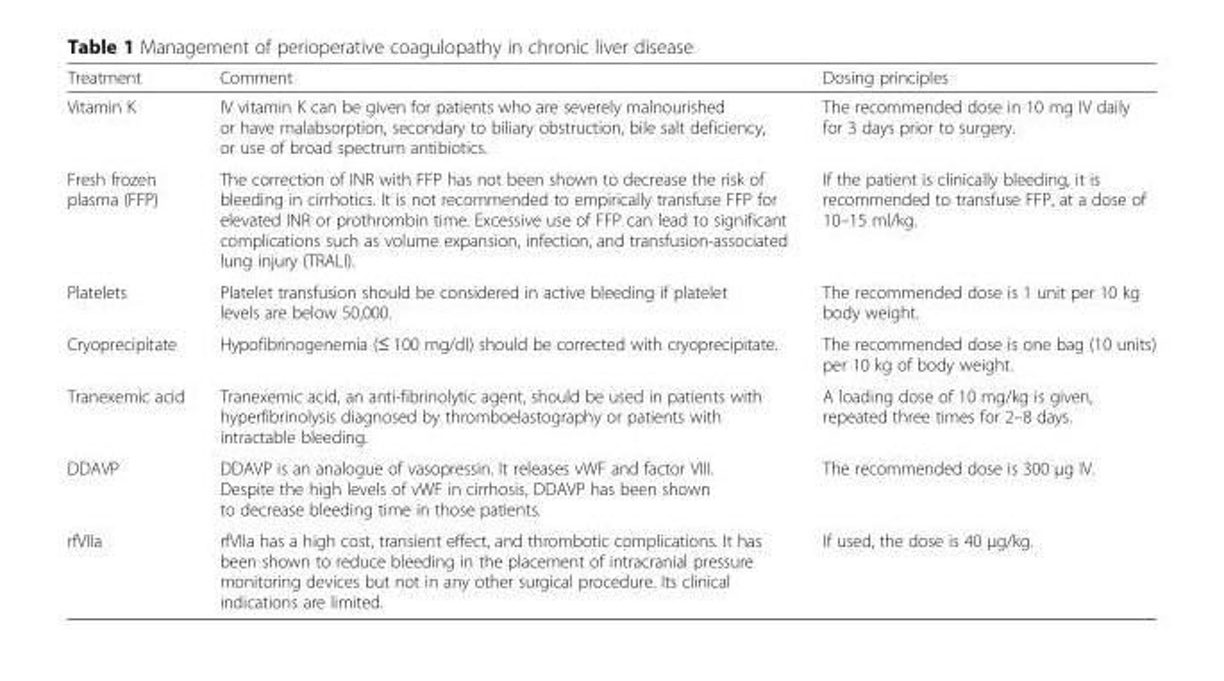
<table><thead><tr><td>Treatment</td><td>Comment</td><td>Dosing principles</td></tr></thead><tbody><tr><td>Vitamin K</td><td>IV vitamin K can be given for patients who are severely malnourished or have malabsorption, secondary to biliary obstruction, bile salt deficiency, or use of broad spectrum antibiotics.</td><td>The recommended dose in 10 mg IV daily for 3 days prior to surgery.</td></tr><tr><td>Fresh frozen plasma (FFP)</td><td>The correction of INR with FFP has not been shown to decrease the risk of bleeding in cirrhotics. It is not recommended to empirically transfuse FFP for elevated INR or prothrombin time. Excessive use of FFP can lead to significant complications such as volume expansion, infection, and transfusion-associated lung injury (TRALI).</td><td>If the patient is clinically bleeding, it is recommended to transfuse FFP, at a dose of 10–15 ml/kg.</td></tr><tr><td>Platelets</td><td>Platelet transfusion should be considered in active bleeding if platelet levels are below 50,000.</td><td>The recommended dose is 1 unit per 10 kg body weight.</td></tr><tr><td>Cryoprecipitate</td><td>Hypofibrinogenemia (≤ 100 mg/dl) should be corrected with cryoprecipitate.</td><td>The recommended dose is one bag (10 units) per 10 kg of body weight.</td></tr><tr><td>Tranexemic acid</td><td>Tranexemic acid, an anti-fibrinolytic agent, should be used in patients with hyperfibrinolysis diagnosed by thromboelastography or patients with intractable bleeding.</td><td>A loading dose of 10 mg/kg is given, repeated three times for 2–8 days.</td></tr><tr><td>DDAVP</td><td>DDAVP is an analogue of vasopressin. It releases vWF and factor VIII. Despite the high levels of vWF in cirrhosis, DDAVP has been shown to decrease bleeding time in those patients.</td><td>The recommended dose is 300 μg IV.</td></tr><tr><td>rfVIIa</td><td>rfVIIa has a high cost, transient effect, and thrombotic complications. It has been shown to reduce bleeding in the placement of intracranial pressure monitoring devices but not in any other surgical procedure. Its clinical indications are limited.</td><td>If used, the dose is 40 μg/kg.</td></tr></tbody></table>